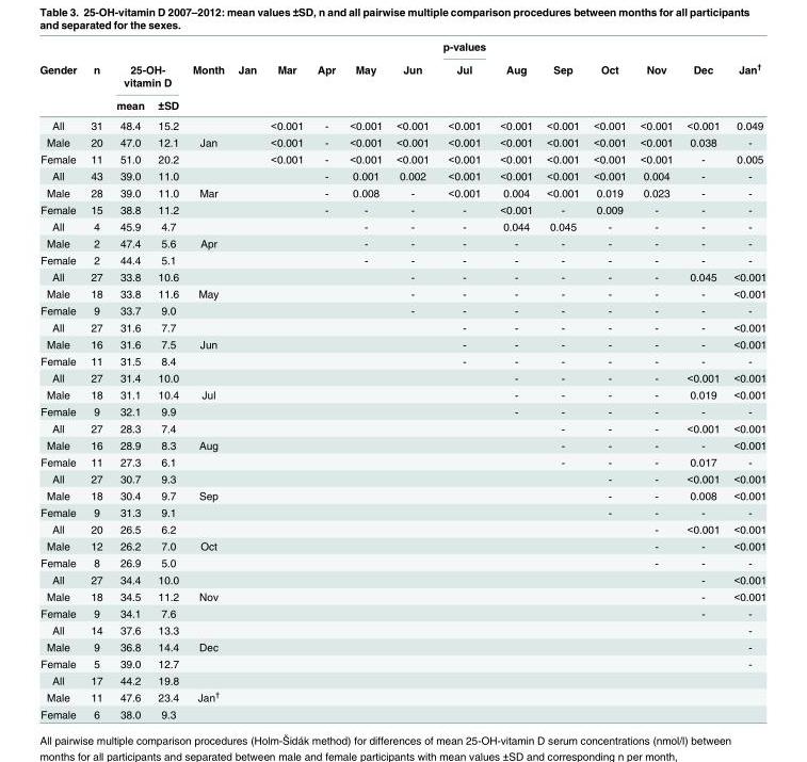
<table><thead><tr><td rowspan="3">Gender</td><td rowspan="3">n</td><td></td><td></td><td rowspan="3">Month</td><td rowspan="3">Jan</td><td rowspan="3">Mar</td><td rowspan="3">Apr</td><td rowspan="3">May</td><td rowspan="3">Jun</td><td rowspan="3">p-values Jul</td><td rowspan="3">Aug</td><td rowspan="3">Sep</td><td rowspan="3">Oct</td><td rowspan="3">Nov</td><td rowspan="3">Dec</td><td rowspan="3">Jan<sup>†</sup></td></tr><tr><td colspan="2">25-OH- vitamin D</td></tr><tr><td>mean</td><td>±SD</td></tr></thead><tbody><tr><td>All</td><td>31</td><td>48.4</td><td>15.2</td><td></td><td></td><td>&lt;0.001</td><td>-</td><td>&lt;0.001</td><td>&lt;0.001</td><td>&lt;0.001</td><td>&lt;0.001</td><td>&lt;0.001</td><td>&lt;0.001</td><td>&lt;0.001</td><td>&lt;0.001</td><td>0.049</td></tr><tr><td>Male</td><td>20</td><td>47.0</td><td>12.1</td><td>Jan</td><td></td><td>&lt;0.001</td><td>-</td><td>&lt;0.001</td><td>&lt;0.001</td><td>&lt;0.001</td><td>&lt;0.001</td><td>&lt;0.001</td><td>&lt;0.001</td><td>&lt;0.001</td><td>0.038</td><td>-</td></tr><tr><td>Female</td><td>11</td><td>51.0</td><td>20.2</td><td></td><td></td><td>&lt;0.001</td><td>-</td><td>&lt;0.001</td><td>&lt;0.001</td><td>&lt;0.001</td><td>&lt;0.001</td><td>&lt;0.001</td><td>&lt;0.001</td><td>&lt;0.001</td><td>-</td><td>0.005</td></tr><tr><td>All</td><td>43</td><td>39.0</td><td>11.0</td><td></td><td></td><td></td><td>-</td><td>0.001</td><td>0.002</td><td>&lt;0.001</td><td>&lt;0.001</td><td>&lt;0.001</td><td>&lt;0.001</td><td>0.004</td><td>-</td><td>-</td></tr><tr><td>Male</td><td>28</td><td>39.0</td><td>11.0</td><td>Mar</td><td></td><td></td><td>-</td><td>0.008</td><td>-</td><td>&lt;0.001</td><td>0.004</td><td>&lt;0.001</td><td>0.019</td><td>0.023</td><td>-</td><td>-</td></tr><tr><td>Female</td><td>15</td><td>38.8</td><td>11.2</td><td></td><td></td><td></td><td>-</td><td>-</td><td>-</td><td>-</td><td>&lt;0.001</td><td>-</td><td>0.009</td><td>-</td><td>-</td><td>-</td></tr><tr><td>All</td><td>4</td><td>45.9</td><td>4.7</td><td></td><td></td><td></td><td></td><td>-</td><td>-</td><td>-</td><td>0.044</td><td>0.045</td><td>-</td><td>-</td><td>-</td><td>-</td></tr><tr><td>Male</td><td>2</td><td>47.4</td><td>5.6</td><td>Apr</td><td></td><td></td><td></td><td>-</td><td>-</td><td>-</td><td>-</td><td>-</td><td>-</td><td>-</td><td>-</td><td>-</td></tr><tr><td>Female</td><td>2</td><td>44.4</td><td>5.1</td><td></td><td></td><td></td><td></td><td>-</td><td>-</td><td>-</td><td>-</td><td>-</td><td>-</td><td>-</td><td>-</td><td>-</td></tr><tr><td>All</td><td>27</td><td>33.8</td><td>10.6</td><td></td><td></td><td></td><td></td><td></td><td>-</td><td>-</td><td>-</td><td>-</td><td>-</td><td>-</td><td>0.045</td><td>&lt;0.001</td></tr><tr><td>Male</td><td>18</td><td>33.8</td><td>11.6</td><td>May</td><td></td><td></td><td></td><td></td><td>-</td><td>-</td><td>-</td><td>-</td><td>-</td><td>-</td><td>-</td><td>&lt;0.001</td></tr><tr><td>Female</td><td>9</td><td>33.7</td><td>9.0</td><td></td><td></td><td></td><td></td><td></td><td>-</td><td>-</td><td>-</td><td>-</td><td>-</td><td>-</td><td>-</td><td>-</td></tr><tr><td>All</td><td>27</td><td>31.6</td><td>7.7</td><td></td><td></td><td></td><td></td><td></td><td></td><td>-</td><td>-</td><td>-</td><td>-</td><td>-</td><td>-</td><td>&lt;0.001</td></tr><tr><td>Male</td><td>16</td><td>31.6</td><td>7.5</td><td>Jun</td><td></td><td></td><td></td><td></td><td></td><td>-</td><td>-</td><td>-</td><td>-</td><td>-</td><td>-</td><td>&lt;0.001</td></tr><tr><td>Female</td><td>11</td><td>31.5</td><td>8.4</td><td></td><td></td><td></td><td></td><td></td><td></td><td>-</td><td>-</td><td>-</td><td>-</td><td>-</td><td>-</td><td>-</td></tr><tr><td>All</td><td>27</td><td>31.4</td><td>10.0</td><td></td><td></td><td></td><td></td><td></td><td></td><td></td><td>-</td><td>-</td><td>-</td><td>-</td><td>&lt;0.001</td><td>&lt;0.001</td></tr><tr><td>Male</td><td>18</td><td>31.1</td><td>10.4</td><td>Jul</td><td></td><td></td><td></td><td></td><td></td><td></td><td>-</td><td>-</td><td>-</td><td>-</td><td>0.019</td><td>&lt;0.001</td></tr><tr><td>Female</td><td>9</td><td>32.1</td><td>9.9</td><td></td><td></td><td></td><td></td><td></td><td></td><td></td><td>-</td><td>-</td><td>-</td><td>-</td><td>-</td><td>-</td></tr><tr><td>All</td><td>27</td><td>28.3</td><td>7.4</td><td></td><td></td><td></td><td></td><td></td><td></td><td></td><td></td><td>-</td><td>-</td><td>-</td><td>&lt;0.001</td><td>&lt;0.001</td></tr><tr><td>Male</td><td>16</td><td>28.9</td><td>8.3</td><td>Aug</td><td></td><td></td><td></td><td></td><td></td><td></td><td></td><td>-</td><td>-</td><td>-</td><td>-</td><td>&lt;0.001</td></tr><tr><td>Female</td><td>11</td><td>27.3</td><td>6.1</td><td></td><td></td><td></td><td></td><td></td><td></td><td></td><td></td><td>-</td><td>-</td><td>-</td><td>0.017</td><td>-</td></tr><tr><td>All</td><td>27</td><td>30.7</td><td>9.3</td><td></td><td></td><td></td><td></td><td></td><td></td><td></td><td></td><td></td><td>-</td><td>-</td><td>&lt;0.001</td><td>&lt;0.001</td></tr><tr><td>Male</td><td>18</td><td>30.4</td><td>9.7</td><td>Sep</td><td></td><td></td><td></td><td></td><td></td><td></td><td></td><td></td><td>-</td><td>-</td><td>0.008</td><td>&lt;0.001</td></tr><tr><td>Female</td><td>9</td><td>31.3</td><td>9.1</td><td></td><td></td><td></td><td></td><td></td><td></td><td></td><td></td><td></td><td>-</td><td>-</td><td>-</td><td>-</td></tr><tr><td>All</td><td>20</td><td>26.5</td><td>6.2</td><td></td><td></td><td></td><td></td><td></td><td></td><td></td><td></td><td></td><td></td><td>-</td><td>&lt;0.001</td><td>&lt;0.001</td></tr><tr><td>Male</td><td>12</td><td>26.2</td><td>7.0</td><td>Oct</td><td></td><td></td><td></td><td></td><td></td><td></td><td></td><td></td><td></td><td>-</td><td>-</td><td>&lt;0.001</td></tr><tr><td>Female</td><td>8</td><td>26.9</td><td>5.0</td><td></td><td></td><td></td><td></td><td></td><td></td><td></td><td></td><td></td><td></td><td>-</td><td>-</td><td>-</td></tr><tr><td>All</td><td>27</td><td>34.4</td><td>10.0</td><td></td><td></td><td></td><td></td><td></td><td></td><td></td><td></td><td></td><td></td><td></td><td>-</td><td>&lt;0.001</td></tr><tr><td>Male</td><td>18</td><td>34.5</td><td>11.2</td><td>Nov</td><td></td><td></td><td></td><td></td><td></td><td></td><td></td><td></td><td></td><td></td><td>-</td><td>&lt;0.001</td></tr><tr><td>Female</td><td>9</td><td>34.1</td><td>7.6</td><td></td><td></td><td></td><td></td><td></td><td></td><td></td><td></td><td></td><td></td><td></td><td>-</td><td>-</td></tr><tr><td>All</td><td>14</td><td>37.6</td><td>13.3</td><td></td><td></td><td></td><td></td><td></td><td></td><td></td><td></td><td></td><td></td><td></td><td></td><td>-</td></tr><tr><td>Male</td><td>9</td><td>36.8</td><td>14.4</td><td>Dec</td><td></td><td></td><td></td><td></td><td></td><td></td><td></td><td></td><td></td><td></td><td></td><td>-</td></tr><tr><td>Female</td><td>5</td><td>39.0</td><td>12.7</td><td></td><td></td><td></td><td></td><td></td><td></td><td></td><td></td><td></td><td></td><td></td><td></td><td>-</td></tr><tr><td>All</td><td>17</td><td>44.2</td><td>19.8</td><td></td><td></td><td></td><td></td><td></td><td></td><td></td><td></td><td></td><td></td><td></td><td></td><td></td></tr><tr><td>Male</td><td>11</td><td>47.6</td><td>23.4</td><td>Jan<sup>†</sup></td><td></td><td></td><td></td><td></td><td></td><td></td><td></td><td></td><td></td><td></td><td></td><td></td></tr><tr><td>Female</td><td>6</td><td>38.0</td><td>9.3</td><td></td><td></td><td></td><td></td><td></td><td></td><td></td><td></td><td></td><td></td><td></td><td></td><td></td></tr></tbody></table>